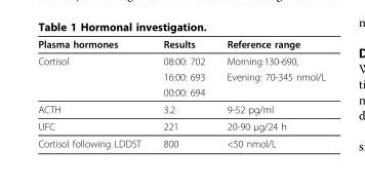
<table><thead><tr><td>Plasma hormones</td><td>Results</td><td>Reference range</td></tr></thead><tbody><tr><td rowspan="3">Cortisol</td><td>08:00: 702</td><td>Morning:130-690,</td></tr><tr><td>16:00: 693</td><td>Evening: 70-345 nmol/L</td></tr><tr><td>00:00: 694</td><td></td></tr><tr><td>ACTH</td><td>3.2</td><td>9-52 pg/ml</td></tr><tr><td>UFC</td><td>221</td><td>20-90 μg/24 h</td></tr><tr><td>Cortisol following LDDST</td><td>800</td><td>&lt;50 nmol/L</td></tr></tbody></table>